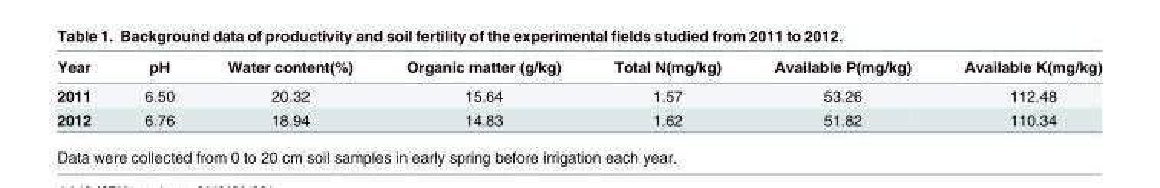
<table><thead><tr><td>Year</td><td>pH</td><td>Water content(%)</td><td>Organic matter (g/kg)</td><td>Total N(mg/kg)</td><td>Available P(mg/kg)</td><td>Available K(mg/kg)</td></tr></thead><tbody><tr><td>2011</td><td>6.50</td><td>20.32</td><td>15.64</td><td>1.57</td><td>53.26</td><td>112.48</td></tr><tr><td>2012</td><td>6.76</td><td>18.94</td><td>14.83</td><td>1.62</td><td>51.82</td><td>110.34</td></tr></tbody></table>